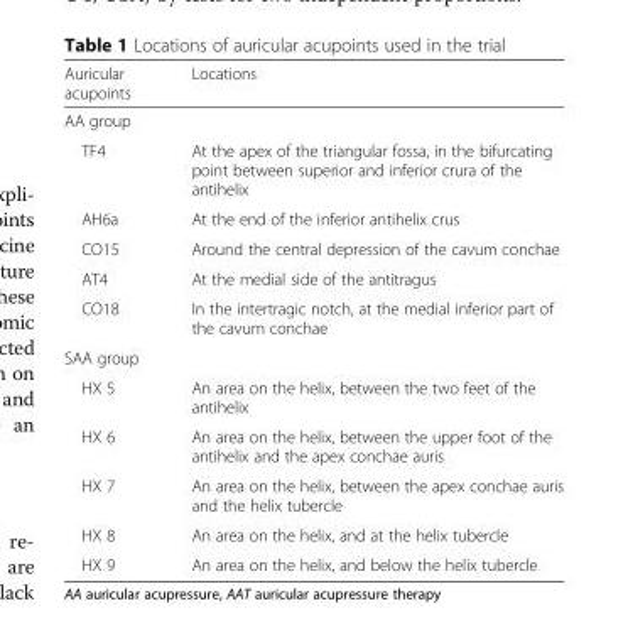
<table><thead><tr><td>Auricular acupoints</td><td>Locations</td></tr></thead><tbody><tr><td colspan="2">AA group</td></tr><tr><td>TF4</td><td>At the apex of the triangular fossa, in the bifurcating point between superior and inferior crura of the antihelix</td></tr><tr><td>AH6a</td><td>At the end of the inferior antihelix crus</td></tr><tr><td>CO15</td><td>Around the central depression of the cavum conchae</td></tr><tr><td>AT4</td><td>At the medial side of the antitragus</td></tr><tr><td>CO18</td><td>In the intertragic notch, at the medial inferior part of the cavum conchae</td></tr><tr><td colspan="2">SAA group</td></tr><tr><td>HX 5</td><td>An area on the helix, between the two feet of the antihelix</td></tr><tr><td>HX 6</td><td>An area on the helix, between the upper foot of the antihelix and the apex conchae auris</td></tr><tr><td>HX 7</td><td>An area on the helix, between the apex conchae auris and the helix tubercle</td></tr><tr><td>HX 8</td><td>An area on the helix, and at the helix tubercle</td></tr><tr><td>HX 9</td><td>An area on the helix, and below the helix tubercle</td></tr></tbody></table>